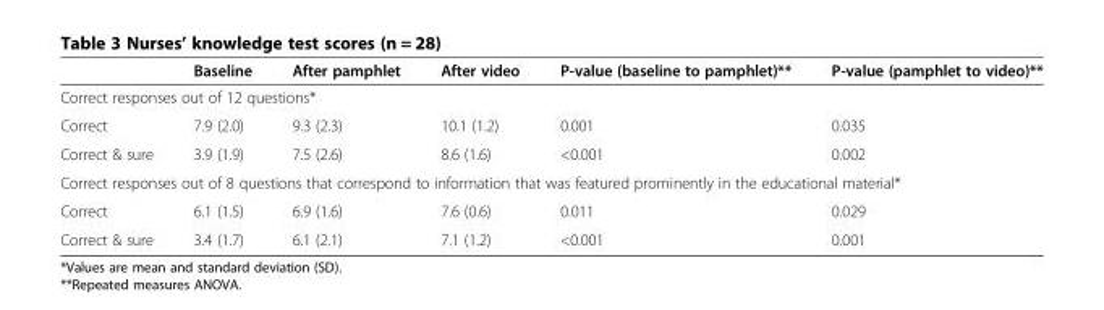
<table><thead><tr><td></td><td>Baseline</td><td>After pamphlet</td><td>After video</td><td>P-value (baseline to pamphlet)**</td><td>P-value (pamphlet to video)**</td></tr></thead><tbody><tr><td colspan="6">Correct responses out of 12 questions*</td></tr><tr><td>Correct</td><td>7.9 (2.0)</td><td>9.3 (2.3)</td><td>10.1 (1.2)</td><td>0.001</td><td>0.035</td></tr><tr><td>Correct &amp; sure</td><td>3.9 (1.9)</td><td>7.5 (2.6)</td><td>8.6 (1.6)</td><td>&lt;0.001</td><td>0.002</td></tr><tr><td colspan="6">Correct responses out of 8 questions that correspond to information that was featured prominently in the educational material*</td></tr><tr><td>Correct</td><td>6.1 (1.5)</td><td>6.9 (1.6)</td><td>7.6 (0.6)</td><td>0.011</td><td>0.029</td></tr><tr><td>Correct &amp; sure</td><td>3.4 (1.7)</td><td>6.1 (2.1)</td><td>7.1 (1.2)</td><td>&lt;0.001</td><td>0.001</td></tr></tbody></table>